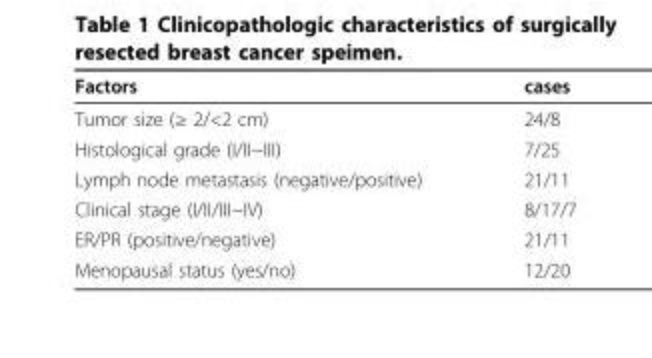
<table><thead><tr><td>Factors</td><td>cases</td></tr></thead><tbody><tr><td>Tumor size (≥ 2/&lt;2 cm)</td><td>24/8</td></tr><tr><td>Histological grade (I/II~III)</td><td>7/25</td></tr><tr><td>Lymph node metastasis (negative/positive)</td><td>21/11</td></tr><tr><td>Clinical stage (I/II/III~IV)</td><td>8/17/7</td></tr><tr><td>ER/PR (positive/negative)</td><td>21/11</td></tr><tr><td>Menopausal status (yes/no)</td><td>12/20</td></tr></tbody></table>